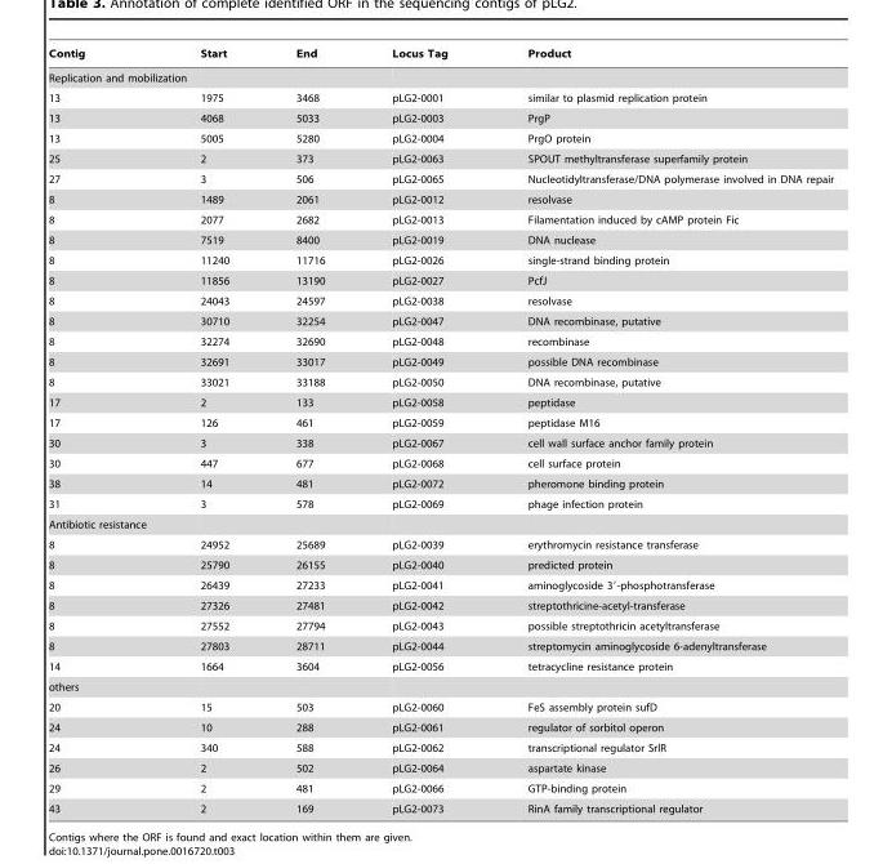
<table><thead><tr><td>Contig</td><td>Start</td><td>End</td><td>Locus Tag</td><td>Product</td></tr></thead><tbody><tr><td colspan="5">Replication and mobilization</td></tr><tr><td>13</td><td>1975</td><td>3468</td><td>pLG2-0001</td><td>similar to plasmid replication protein</td></tr><tr><td>13</td><td>4068</td><td>5033</td><td>pLG2-0003</td><td>PrgP</td></tr><tr><td>13</td><td>5005</td><td>5280</td><td>pLG2-0004</td><td>PrgO protein</td></tr><tr><td>25</td><td>2</td><td>373</td><td>pLG2-0063</td><td>SPOUT methyltransferase superfamily protein</td></tr><tr><td>27</td><td>3</td><td>506</td><td>pLG2-0065</td><td>Nucleotidyltransferase/DNA polymerase involved in DNA repair</td></tr><tr><td>8</td><td>1489</td><td>2061</td><td>pLG2-0012</td><td>resolvase</td></tr><tr><td>8</td><td>2077</td><td>2682</td><td>pLG2-0013</td><td>Filamentation induced by cAMP protein Fic</td></tr><tr><td>8</td><td>7519</td><td>8400</td><td>pLG2-0019</td><td>DNA nuclease</td></tr><tr><td>8</td><td>11240</td><td>11716</td><td>pLG2-0026</td><td>single-strand binding protein</td></tr><tr><td>8</td><td>11856</td><td>13190</td><td>pLG2-0027</td><td>PcfJ</td></tr><tr><td>8</td><td>24043</td><td>24597</td><td>pLG2-0038</td><td>resolvase</td></tr><tr><td>8</td><td>30710</td><td>32254</td><td>pLG2-0047</td><td>DNA recombinase, putative</td></tr><tr><td>8</td><td>32274</td><td>32690</td><td>pLG2-0048</td><td>recombinase</td></tr><tr><td>8</td><td>32691</td><td>33017</td><td>pLG2-0049</td><td>possible DNA recombinase</td></tr><tr><td>8</td><td>33021</td><td>33188</td><td>pLG2-0050</td><td>DNA recombinase, putative</td></tr><tr><td>17</td><td>2</td><td>133</td><td>pLG2-0058</td><td>peptidase</td></tr><tr><td>17</td><td>126</td><td>461</td><td>pLG2-0059</td><td>peptidase M16</td></tr><tr><td>30</td><td>3</td><td>338</td><td>pLG2-0067</td><td>cell wall surface anchor family protein</td></tr><tr><td>30</td><td>447</td><td>677</td><td>pLG2-0068</td><td>cell surface protein</td></tr><tr><td>38</td><td>14</td><td>481</td><td>pLG2-0072</td><td>pheromone binding protein</td></tr><tr><td>31</td><td>3</td><td>578</td><td>pLG2-0069</td><td>phage infection protein</td></tr><tr><td colspan="5">Antibiotic resistance</td></tr><tr><td>8</td><td>24952</td><td>25689</td><td>pLG2-0039</td><td>erythromycin resistance transferase</td></tr><tr><td>8</td><td>25790</td><td>26155</td><td>pLG2-0040</td><td>predicted protein</td></tr><tr><td>8</td><td>26439</td><td>27233</td><td>pLG2-0041</td><td>aminoglycoside 3′-phosphotransferase</td></tr><tr><td>8</td><td>27326</td><td>27481</td><td>pLG2-0042</td><td>streptothricine-acetyl-transferase</td></tr><tr><td>8</td><td>27552</td><td>27794</td><td>pLG2-0043</td><td>possible streptothricin acetyltransferase</td></tr><tr><td>8</td><td>27803</td><td>28711</td><td>pLG2-0044</td><td>streptomycin aminoglycoside 6-adenyltransferase</td></tr><tr><td>14</td><td>1664</td><td>3604</td><td>pLG2-0056</td><td>tetracycline resistance protein</td></tr><tr><td colspan="5">others</td></tr><tr><td>20</td><td>15</td><td>503</td><td>pLG2-0060</td><td>FeS assembly protein sufD</td></tr><tr><td>24</td><td>10</td><td>288</td><td>pLG2-0061</td><td>regulator of sorbitol operon</td></tr><tr><td>24</td><td>340</td><td>588</td><td>pLG2-0062</td><td>transcriptional regulator SrlR</td></tr><tr><td>26</td><td>2</td><td>502</td><td>pLG2-0064</td><td>aspartate kinase</td></tr><tr><td>29</td><td>2</td><td>481</td><td>pLG2-0066</td><td>GTP-binding protein</td></tr><tr><td>43</td><td>2</td><td>169</td><td>pLG2-0073</td><td>RinA family transcriptional regulator</td></tr></tbody></table>